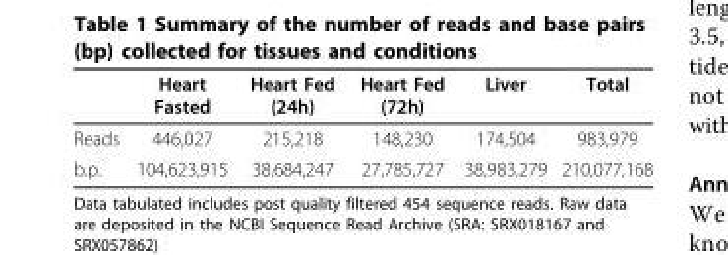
<table><thead><tr><td></td><td>Heart Fasted</td><td>Heart Fed (24h)</td><td>Heart Fed (72h)</td><td>Liver</td><td>Total</td></tr></thead><tbody><tr><td>Reads</td><td>446,027</td><td>215,218</td><td>148,230</td><td>174,504</td><td>983,979</td></tr><tr><td>b.p.</td><td>104,623,915</td><td>38,684,247</td><td>27,785,727</td><td>38,983,279</td><td>210,077,168</td></tr></tbody></table>